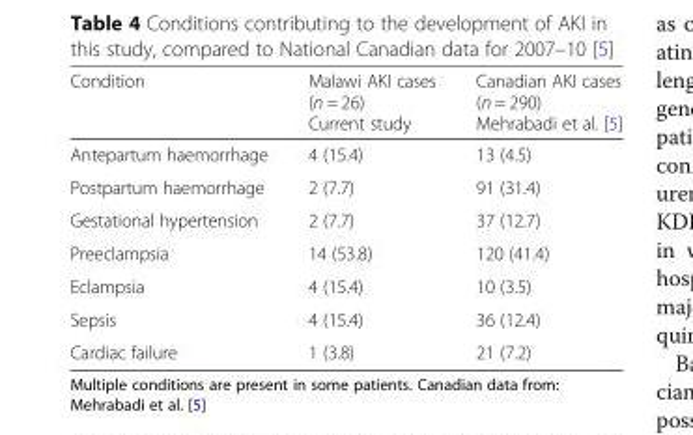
<table><thead><tr><td>Condition</td><td>Malawi AKI cases (n = 26) Current study</td><td>Canadian AKI cases (n = 290) Mehrabadi et al. [5]</td></tr></thead><tbody><tr><td>Antepartum haemorrhage</td><td>4 (15.4)</td><td>13 (4.5)</td></tr><tr><td>Postpartum haemorrhage</td><td>2 (7.7)</td><td>91 (31.4)</td></tr><tr><td>Gestational hypertension</td><td>2 (7.7)</td><td>37 (12.7)</td></tr><tr><td>Preeclampsia</td><td>14 (53.8)</td><td>120 (41.4)</td></tr><tr><td>Eclampsia</td><td>4 (15.4)</td><td>10 (3.5)</td></tr><tr><td>Sepsis</td><td>4 (15.4)</td><td>36 (12.4)</td></tr><tr><td>Cardiac failure</td><td>1 (3.8)</td><td>21 (7.2)</td></tr></tbody></table>